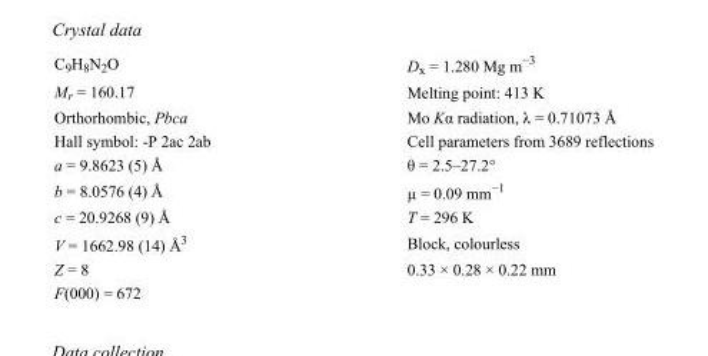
<table><tbody><tr><td>C<sub>9</sub>H<sub>8</sub>N<sub>2</sub>O</td><td>D<sub>x</sub> = 1.280 Mg m<sup>−3</sup></td></tr><tr><td>M<sub>r</sub> = 160.17</td><td>Melting point: 413 K</td></tr><tr><td>Orthorhombic, Pbca</td><td>Mo Kα radiation, λ = 0.71073 Å</td></tr><tr><td>Hall symbol: -P 2ac 2ab</td><td>Cell parameters from 3689 reflections</td></tr><tr><td>a = 9.8623 (5) Å</td><td>θ = 2.5–27.2°</td></tr><tr><td>b = 8.0576 (4) Å</td><td>µ = 0.09 mm<sup>−1</sup></td></tr><tr><td>c = 20.9268 (9) Å</td><td>T = 296 K</td></tr><tr><td>V = 1662.98 (14) Å<sup>3</sup></td><td>Block, colourless</td></tr><tr><td>Z = 8</td><td>0.33 × 0.28 × 0.22 mm</td></tr><tr><td>F(000) = 672</td><td></td></tr></tbody></table>